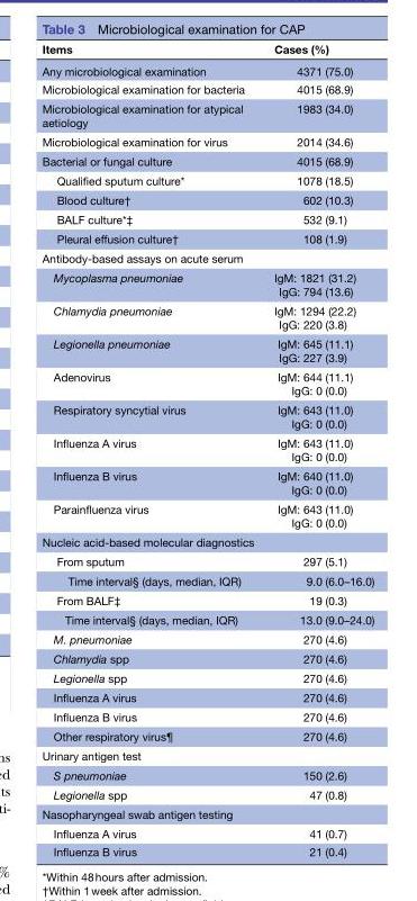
<table><thead><tr><td>Items</td><td>Cases (%)</td></tr></thead><tbody><tr><td>Any microbiological examination</td><td>4371 (75.0)</td></tr><tr><td>Microbiological examination for bacteria</td><td>4015 (68.9)</td></tr><tr><td>Microbiological examination for atypical aetiology</td><td>1983 (34.0)</td></tr><tr><td>Microbiological examination for virus</td><td>2014 (34.6)</td></tr><tr><td>Bacterial or fungal culture</td><td>4015 (68.9)</td></tr><tr><td>Qualified sputum culture*</td><td>1078 (18.5)</td></tr><tr><td>Blood culture†</td><td>602 (10.3)</td></tr><tr><td>BALF culture*‡</td><td>532 (9.1)</td></tr><tr><td>Pleural effusion culture†</td><td>108 (1.9)</td></tr><tr><td colspan="2">Antibody-based assays on acute serum</td></tr><tr><td>Mycoplasma pneumoniae</td><td>IgM: 1821 (31.2) IgG: 794 (13.6)</td></tr><tr><td>Chlamydia pneumoniae</td><td>IgM: 1294 (22.2) IgG: 220 (3.8)</td></tr><tr><td>Legionella pneumoniae</td><td>IgM: 645 (11.1) IgG: 227 (3.9)</td></tr><tr><td>Adenovirus</td><td>IgM: 644 (11.1) IgG: 0 (0.0)</td></tr><tr><td>Respiratory syncytial virus</td><td>IgM: 643 (11.0) IgG: 0 (0.0)</td></tr><tr><td>Influenza A virus</td><td>IgM: 643 (11.0) IgG: 0 (0.0)</td></tr><tr><td>Influenza B virus</td><td>IgM: 640 (11.0) IgG: 0 (0.0)</td></tr><tr><td>Parainfluenza virus</td><td>IgM: 643 (11.0) IgG: 0 (0.0)</td></tr><tr><td colspan="2">Nucleic acid-based molecular diagnostics</td></tr><tr><td>From sputum</td><td>297 (5.1)</td></tr><tr><td>Time interval§ (days, median, IQR)</td><td>9.0 (6.0–16.0)</td></tr><tr><td>From BALF‡</td><td>19 (0.3)</td></tr><tr><td>Time interval§ (days, median, IQR)</td><td>13.0 (9.0–24.0)</td></tr><tr><td>M. pneumoniae</td><td>270 (4.6)</td></tr><tr><td>Chlamydia spp</td><td>270 (4.6)</td></tr><tr><td>Legionella spp</td><td>270 (4.6)</td></tr><tr><td>Influenza A virus</td><td>270 (4.6)</td></tr><tr><td>Influenza B virus</td><td>270 (4.6)</td></tr><tr><td>Other respiratory virus¶</td><td>270 (4.6)</td></tr><tr><td colspan="2">Urinary antigen test</td></tr><tr><td>S pneumoniae</td><td>150 (2.6)</td></tr><tr><td>Legionella spp</td><td>47 (0.8)</td></tr><tr><td colspan="2">Nasopharyngeal swab antigen testing</td></tr><tr><td>Influenza A virus</td><td>41 (0.7)</td></tr><tr><td>Influenza B virus</td><td>21 (0.4)</td></tr></tbody></table>